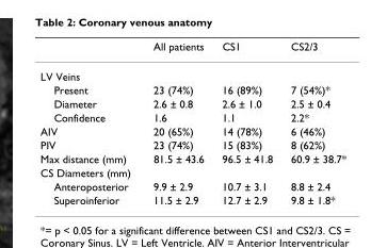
<table><thead><tr><td></td><td>All patients</td><td>CS1</td><td>CS2/3</td></tr></thead><tbody><tr><td colspan="4">LV Veins</td></tr><tr><td>Present</td><td>23 (74%)</td><td>16 (89%)</td><td>7 (54%)*</td></tr><tr><td>Diameter</td><td>2.6 ± 0.8</td><td>2.6 ± 1.0</td><td>2.5 ± 0.4</td></tr><tr><td>Confidence</td><td>1.6</td><td>1.1</td><td>2.2*</td></tr><tr><td>AIV</td><td>20 (65%)</td><td>14 (78%)</td><td>6 (46%)</td></tr><tr><td>PIV</td><td>23 (74%)</td><td>15 (83%)</td><td>8 (62%)</td></tr><tr><td>Max distance (mm)</td><td>81.5 ± 43.6</td><td>96.5 ± 41.8</td><td>60.9 ± 38.7*</td></tr><tr><td colspan="4">CS Diameters (mm)</td></tr><tr><td>Anteroposterior</td><td>9.9 ± 2.9</td><td>10.7 ± 3.1</td><td>8.8 ± 2.4</td></tr><tr><td>Superoinferior</td><td>11.5 ± 2.9</td><td>12.7 ± 2.9</td><td>9.8 ± 1.8*</td></tr></tbody></table>